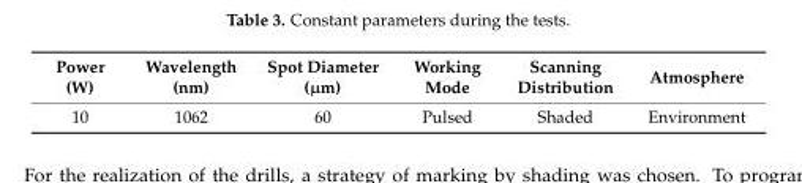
<table><thead><tr><td>Power (W)</td><td>Wavelength (nm)</td><td>Spot Diameter (µm)</td><td>Working Mode</td><td>Scanning Distribution</td><td>Atmosphere</td></tr></thead><tbody><tr><td>10</td><td>1062</td><td>60</td><td>Pulsed</td><td>Shaded</td><td>Environment</td></tr></tbody></table>